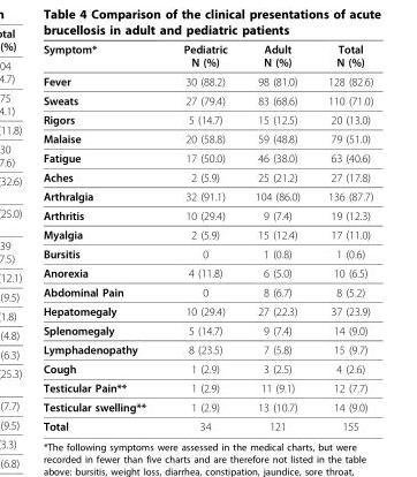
<table><thead><tr><td>Symptom*</td><td>Pediatric N (%)</td><td>Adult N (%)</td><td>Total N (%)</td></tr></thead><tbody><tr><td>Fever</td><td>30 (88.2)</td><td>98 (81.0)</td><td>128 (82.6)</td></tr><tr><td>Sweats</td><td>27 (79.4)</td><td>83 (68.6)</td><td>110 (71.0)</td></tr><tr><td>Rigors</td><td>5 (14.7)</td><td>15 (12.5)</td><td>20 (13.0)</td></tr><tr><td>Malaise</td><td>20 (58.8)</td><td>59 (48.8)</td><td>79 (51.0)</td></tr><tr><td>Fatigue</td><td>17 (50.0)</td><td>46 (38.0)</td><td>63 (40.6)</td></tr><tr><td>Aches</td><td>2 (5.9)</td><td>25 (21.2)</td><td>27 (17.8)</td></tr><tr><td>Arthralgia</td><td>32 (91.1)</td><td>104 (86.0)</td><td>136 (87.7)</td></tr><tr><td>Arthritis</td><td>10 (29.4)</td><td>9 (7.4)</td><td>19 (12.3)</td></tr><tr><td>Myalgia</td><td>2 (5.9)</td><td>15 (12.4)</td><td>17 (11.0)</td></tr><tr><td>Bursitis</td><td>0</td><td>1 (0.8)</td><td>1 (0.6)</td></tr><tr><td>Anorexia</td><td>4 (11.8)</td><td>6 (5.0)</td><td>10 (6.5)</td></tr><tr><td>Abdominal Pain</td><td>0</td><td>8 (6.7)</td><td>8 (5.2)</td></tr><tr><td>Hepatomegaly</td><td>10 (29.4)</td><td>27 (22.3)</td><td>37 (23.9)</td></tr><tr><td>Splenomegaly</td><td>5 (14.7)</td><td>9 (7.4)</td><td>14 (9.0)</td></tr><tr><td>Lymphadenopathy</td><td>8 (23.5)</td><td>7 (5.8)</td><td>15 (9.7)</td></tr><tr><td>Cough</td><td>1 (2.9)</td><td>3 (2.5)</td><td>4 (2.6)</td></tr><tr><td>Testicular Pain**</td><td>1 (2.9)</td><td>11 (9.1)</td><td>12 (7.7)</td></tr><tr><td>Testicular swelling**</td><td>1 (2.9)</td><td>13 (10.7)</td><td>14 (9.0)</td></tr><tr><td>Total</td><td>34</td><td>121</td><td>155</td></tr></tbody></table>